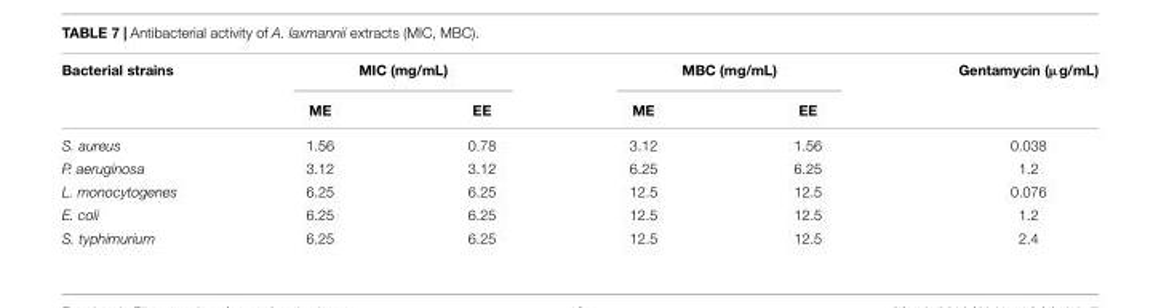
<table><thead><tr><td rowspan="2">Bacterial strains</td><td colspan="2">MIC (mg/mL)</td><td colspan="2">MBC (mg/mL)</td><td rowspan="2">Gentamycin (µg/mL)</td></tr><tr><td>ME</td><td>EE</td><td>ME</td><td>EE</td></tr></thead><tbody><tr><td>S. aureus</td><td>1.56</td><td>0.78</td><td>3.12</td><td>1.56</td><td>0.038</td></tr><tr><td>P. aeruginosa</td><td>3.12</td><td>3.12</td><td>6.25</td><td>6.25</td><td>1.2</td></tr><tr><td>L. monocytogenes</td><td>6.25</td><td>6.25</td><td>12.5</td><td>12.5</td><td>0.076</td></tr><tr><td>E. coli</td><td>6.25</td><td>6.25</td><td>12.5</td><td>12.5</td><td>1.2</td></tr><tr><td>S. typhimurium</td><td>6.25</td><td>6.25</td><td>12.5</td><td>12.5</td><td>2.4</td></tr></tbody></table>